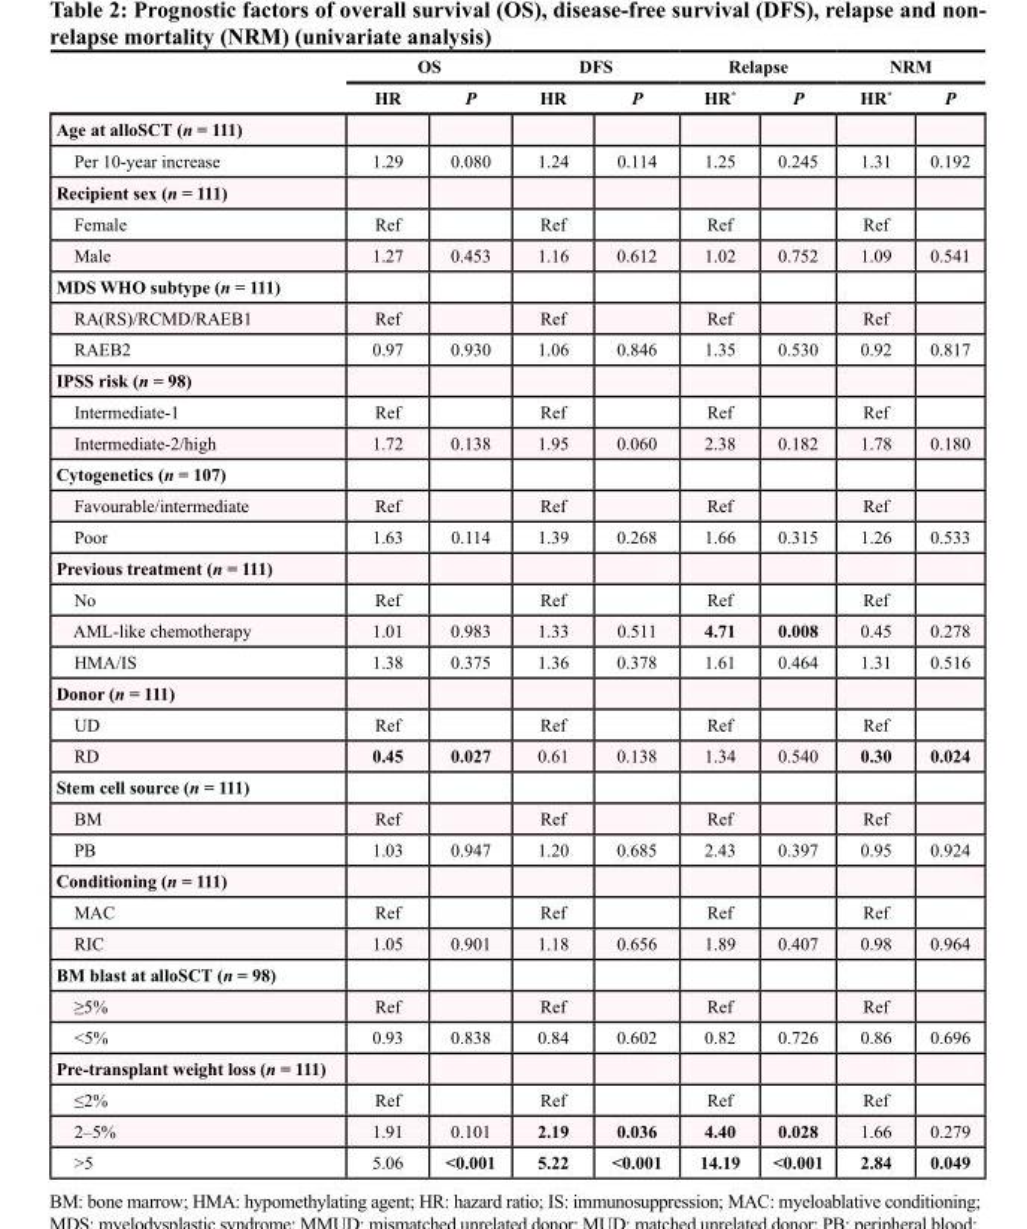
<table><thead><tr><td rowspan="2"></td><td colspan="2">OS</td><td colspan="2">DFS</td><td colspan="2">Relapse</td><td colspan="2">NRM</td></tr><tr><td>HR</td><td>P</td><td>HR</td><td>P</td><td>HR*</td><td>P</td><td>HR*</td><td>P</td></tr></thead><tbody><tr><td colspan="9">Age at alloSCT (n = 111)</td></tr><tr><td>Per 10-year increase</td><td>1.29</td><td>0.080</td><td>1.24</td><td>0.114</td><td>1.25</td><td>0.245</td><td>1.31</td><td>0.192</td></tr><tr><td colspan="9">Recipient sex (n = 111)</td></tr><tr><td>Female</td><td>Ref</td><td></td><td>Ref</td><td></td><td>Ref</td><td></td><td>Ref</td><td></td></tr><tr><td>Male</td><td>1.27</td><td>0.453</td><td>1.16</td><td>0.612</td><td>1.02</td><td>0.752</td><td>1.09</td><td>0.541</td></tr><tr><td colspan="9">MDS WHO subtype (n = 111)</td></tr><tr><td>RA(RS)/RCMD/RAEB1</td><td>Ref</td><td></td><td>Ref</td><td></td><td>Ref</td><td></td><td>Ref</td><td></td></tr><tr><td>RAEB2</td><td>0.97</td><td>0.930</td><td>1.06</td><td>0.846</td><td>1.35</td><td>0.530</td><td>0.92</td><td>0.817</td></tr><tr><td colspan="9">IPSS risk (n = 98)</td></tr><tr><td>Intermediate-1</td><td>Ref</td><td></td><td>Ref</td><td></td><td>Ref</td><td></td><td>Ref</td><td></td></tr><tr><td>Intermediate-2/high</td><td>1.72</td><td>0.138</td><td>1.95</td><td>0.060</td><td>2.38</td><td>0.182</td><td>1.78</td><td>0.180</td></tr><tr><td colspan="9">Cytogenetics (n = 107)</td></tr><tr><td>Favourable/intermediate</td><td>Ref</td><td></td><td>Ref</td><td></td><td>Ref</td><td></td><td>Ref</td><td></td></tr><tr><td>Poor</td><td>1.63</td><td>0.114</td><td>1.39</td><td>0.268</td><td>1.66</td><td>0.315</td><td>1.26</td><td>0.533</td></tr><tr><td colspan="9">Previous treatment (n = 111)</td></tr><tr><td>No</td><td>Ref</td><td></td><td>Ref</td><td></td><td>Ref</td><td></td><td>Ref</td><td></td></tr><tr><td>AML-like chemotherapy</td><td>1.01</td><td>0.983</td><td>1.33</td><td>0.511</td><td>4.71</td><td>0.008</td><td>0.45</td><td>0.278</td></tr><tr><td>HMA/IS</td><td>1.38</td><td>0.375</td><td>1.36</td><td>0.378</td><td>1.61</td><td>0.464</td><td>1.31</td><td>0.516</td></tr><tr><td colspan="9">Donor (n = 111)</td></tr><tr><td>UD</td><td>Ref</td><td></td><td>Ref</td><td></td><td>Ref</td><td></td><td>Ref</td><td></td></tr><tr><td>RD</td><td>0.45</td><td>0.027</td><td>0.61</td><td>0.138</td><td>1.34</td><td>0.540</td><td>0.30</td><td>0.024</td></tr><tr><td colspan="9">Stem cell source (n = 111)</td></tr><tr><td>BM</td><td>Ref</td><td></td><td>Ref</td><td></td><td>Ref</td><td></td><td>Ref</td><td></td></tr><tr><td>PB</td><td>1.03</td><td>0.947</td><td>1.20</td><td>0.685</td><td>2.43</td><td>0.397</td><td>0.95</td><td>0.924</td></tr><tr><td colspan="9">Conditioning (n = 111)</td></tr><tr><td>MAC</td><td>Ref</td><td></td><td>Ref</td><td></td><td>Ref</td><td></td><td>Ref</td><td></td></tr><tr><td>RIC</td><td>1.05</td><td>0.901</td><td>1.18</td><td>0.656</td><td>1.89</td><td>0.407</td><td>0.98</td><td>0.964</td></tr><tr><td colspan="9">BM blast at alloSCT (n = 98)</td></tr><tr><td>≥5%</td><td>Ref</td><td></td><td>Ref</td><td></td><td>Ref</td><td></td><td>Ref</td><td></td></tr><tr><td>&lt;5%</td><td>0.93</td><td>0.838</td><td>0.84</td><td>0.602</td><td>0.82</td><td>0.726</td><td>0.86</td><td>0.696</td></tr><tr><td colspan="9">Pre-transplant weight loss (n = 111)</td></tr><tr><td>≤2%</td><td>Ref</td><td></td><td>Ref</td><td></td><td>Ref</td><td></td><td>Ref</td><td></td></tr><tr><td>2–5%</td><td>1.91</td><td>0.101</td><td>2.19</td><td>0.036</td><td>4.40</td><td>0.028</td><td>1.66</td><td>0.279</td></tr><tr><td>&gt;5</td><td>5.06</td><td>&lt;0.001</td><td>5.22</td><td>&lt;0.001</td><td>14.19</td><td>&lt;0.001</td><td>2.84</td><td>0.049</td></tr></tbody></table>